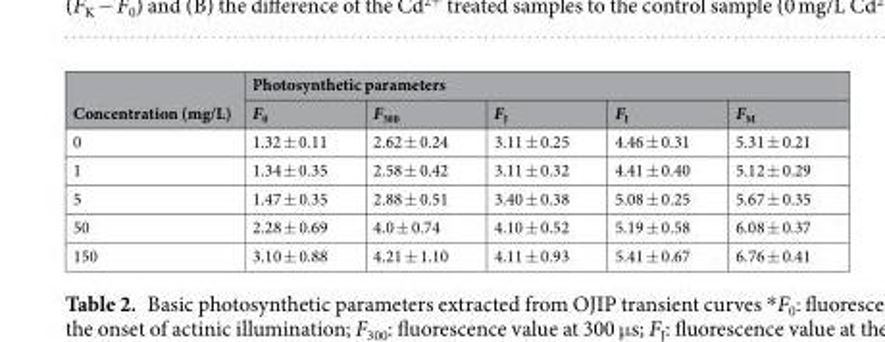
<table><thead><tr><td rowspan="2">Concentration (mg/L)</td><td colspan="5">Photosynthetic parameters</td></tr><tr><td>F<sub>0</sub></td><td>F<sub>300</sub></td><td>F<sub>J</sub></td><td>F<sub>I</sub></td><td>F<sub>M</sub></td></tr></thead><tbody><tr><td>0</td><td>1.32 ± 0.11</td><td>2.62 ± 0.24</td><td>3.11 ± 0.25</td><td>4.46 ± 0.31</td><td>5.31 ± 0.21</td></tr><tr><td>1</td><td>1.34 ± 0.35</td><td>2.58 ± 0.42</td><td>3.11 ± 0.32</td><td>4.41 ± 0.40</td><td>5.12 ± 0.29</td></tr><tr><td>5</td><td>1.47 ± 0.35</td><td>2.88 ± 0.51</td><td>3.40 ± 0.38</td><td>5.08 ± 0.25</td><td>5.67 ± 0.35</td></tr><tr><td>50</td><td>2.28 ± 0.69</td><td>4.0 ± 0.74</td><td>4.10 ± 0.52</td><td>5.19 ± 0.58</td><td>6.08 ± 0.37</td></tr><tr><td>150</td><td>3.10 ± 0.88</td><td>4.21 ± 1.10</td><td>4.11 ± 0.93</td><td>5.41 ± 0.67</td><td>6.76 ± 0.41</td></tr></tbody></table>